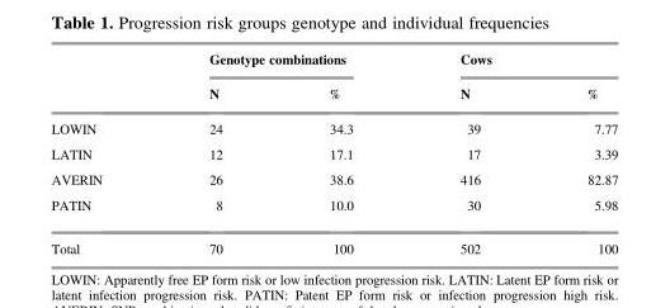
<table><thead><tr><td rowspan="2"></td><td colspan="2">Genotype combinations</td><td colspan="2">Cows</td></tr><tr><td>N</td><td>%</td><td>N</td><td>%</td></tr></thead><tbody><tr><td>LOWIN</td><td>24</td><td>34.3</td><td>39</td><td>7.77</td></tr><tr><td>LATIN</td><td>12</td><td>17.1</td><td>17</td><td>3.39</td></tr><tr><td>AVERIN</td><td>26</td><td>38.6</td><td>416</td><td>82.87</td></tr><tr><td>PATIN</td><td>8</td><td>10.0</td><td>30</td><td>5.98</td></tr><tr><td>Total</td><td>70</td><td>100</td><td>502</td><td>100</td></tr></tbody></table>